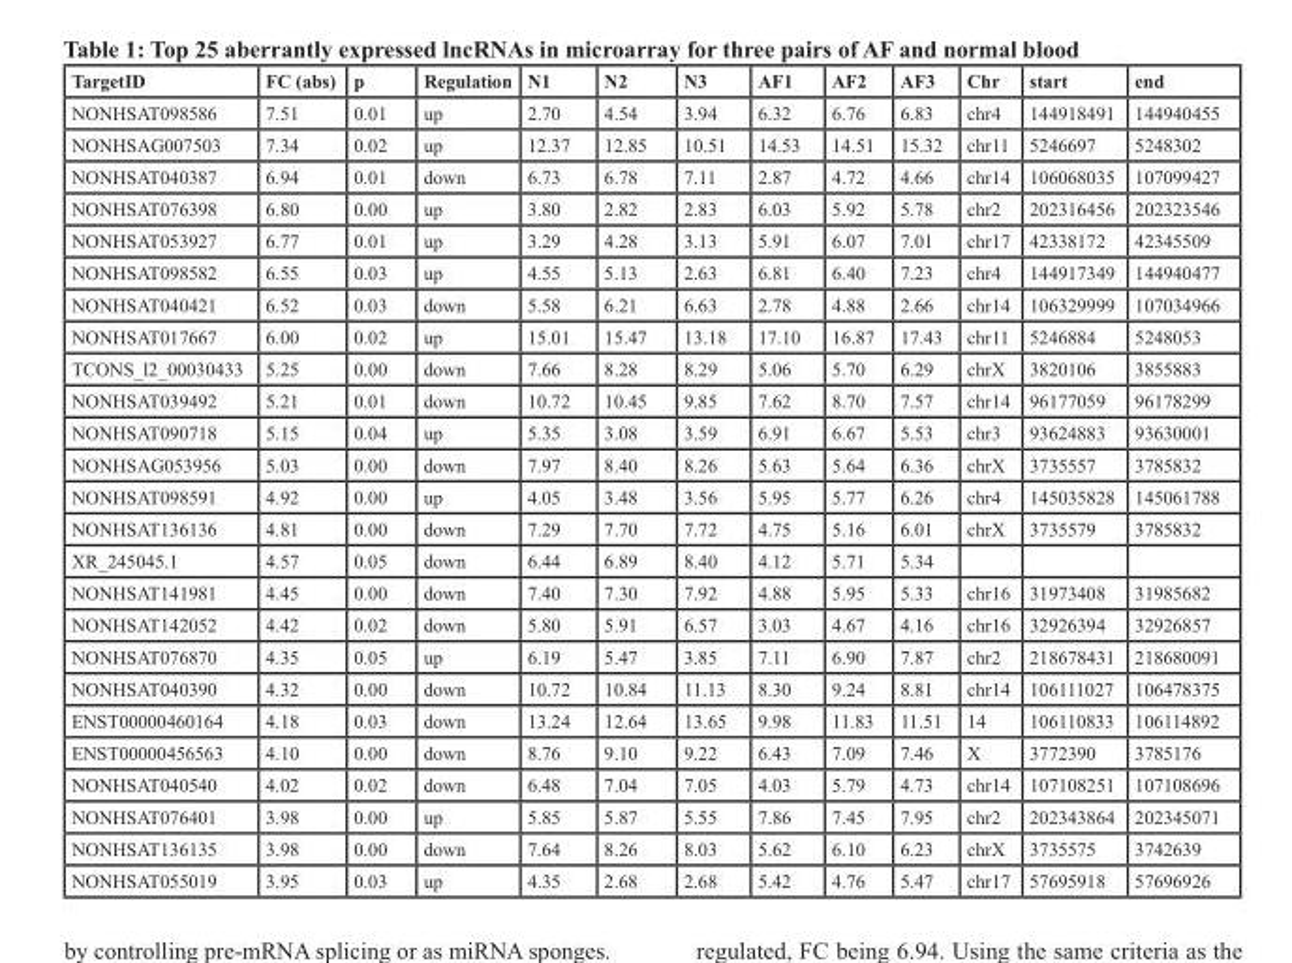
<table><thead><tr><td>TargetID</td><td>FC (abs)</td><td>p</td><td>Regulation</td><td>N1</td><td>N2</td><td>N3</td><td>AF1</td><td>AF2</td><td>AF3</td><td>Chr</td><td>start</td><td>end</td></tr></thead><tbody><tr><td>NONHSAT098586</td><td>7.51</td><td>0.01</td><td>up</td><td>2.70</td><td>4.54</td><td>3.94</td><td>6.32</td><td>6.76</td><td>6.83</td><td>chr4</td><td>144918491</td><td>144940455</td></tr><tr><td>NONHSAG007503</td><td>7.34</td><td>0.02</td><td>up</td><td>12.37</td><td>12.85</td><td>10.51</td><td>14.53</td><td>14.51</td><td>15.32</td><td>chr11</td><td>5246697</td><td>5248302</td></tr><tr><td>NONHSAT040387</td><td>6.94</td><td>0.01</td><td>down</td><td>6.73</td><td>6.78</td><td>7.11</td><td>2.87</td><td>4.72</td><td>4.66</td><td>chr14</td><td>106068035</td><td>107099427</td></tr><tr><td>NONHSAT076398</td><td>6.80</td><td>0.00</td><td>up</td><td>3.80</td><td>2.82</td><td>2.83</td><td>6.03</td><td>5.92</td><td>5.78</td><td>chr2</td><td>202316456</td><td>202323546</td></tr><tr><td>NONHSAT053927</td><td>6.77</td><td>0.01</td><td>up</td><td>3.29</td><td>4.28</td><td>3.13</td><td>5.91</td><td>6.07</td><td>7.01</td><td>chr17</td><td>42338172</td><td>42345509</td></tr><tr><td>NONHSAT098582</td><td>6.55</td><td>0.03</td><td>up</td><td>4.55</td><td>5.13</td><td>2.63</td><td>6.81</td><td>6.40</td><td>7.23</td><td>chr4</td><td>144917349</td><td>144940477</td></tr><tr><td>NONHSAT040421</td><td>6.52</td><td>0.03</td><td>down</td><td>5.58</td><td>6.21</td><td>6.63</td><td>2.78</td><td>4.88</td><td>2.66</td><td>chr14</td><td>106329999</td><td>107034966</td></tr><tr><td>NONHSAT017667</td><td>6.00</td><td>0.02</td><td>up</td><td>15.01</td><td>15.47</td><td>13.18</td><td>17.10</td><td>16.87</td><td>17.43</td><td>chr11</td><td>5246884</td><td>5248053</td></tr><tr><td>TCONS_l2_00030433</td><td>5.25</td><td>0.00</td><td>down</td><td>7.66</td><td>8.28</td><td>8.29</td><td>5.06</td><td>5.70</td><td>6.29</td><td>chrX</td><td>3820106</td><td>3855883</td></tr><tr><td>NONHSAT039492</td><td>5.21</td><td>0.01</td><td>down</td><td>10.72</td><td>10.45</td><td>9.85</td><td>7.62</td><td>8.70</td><td>7.57</td><td>chr14</td><td>96177059</td><td>96178299</td></tr><tr><td>NONHSAT090718</td><td>5.15</td><td>0.04</td><td>up</td><td>5.35</td><td>3.08</td><td>3.59</td><td>6.91</td><td>6.67</td><td>5.53</td><td>chr3</td><td>93624883</td><td>93630001</td></tr><tr><td>NONHSAG053956</td><td>5.03</td><td>0.00</td><td>down</td><td>7.97</td><td>8.40</td><td>8.26</td><td>5.63</td><td>5.64</td><td>6.36</td><td>chrX</td><td>3735557</td><td>3785832</td></tr><tr><td>NONHSAT098591</td><td>4.92</td><td>0.00</td><td>up</td><td>4.05</td><td>3.48</td><td>3.56</td><td>5.95</td><td>5.77</td><td>6.26</td><td>chr4</td><td>145035828</td><td>145061788</td></tr><tr><td>NONHSAT136136</td><td>4.81</td><td>0.00</td><td>down</td><td>7.29</td><td>7.70</td><td>7.72</td><td>4.75</td><td>5.16</td><td>6.01</td><td>chrX</td><td>3735579</td><td>3785832</td></tr><tr><td>XR_245045.1</td><td>4.57</td><td>0.05</td><td>down</td><td>6.44</td><td>6.89</td><td>8.40</td><td>4.12</td><td>5.71</td><td>5.34</td><td></td><td></td><td></td></tr><tr><td>NONHSAT141981</td><td>4.45</td><td>0.00</td><td>down</td><td>7.40</td><td>7.30</td><td>7.92</td><td>4.88</td><td>5.95</td><td>5.33</td><td>chr16</td><td>31973408</td><td>31985682</td></tr><tr><td>NONHSAT142052</td><td>4.42</td><td>0.02</td><td>down</td><td>5.80</td><td>5.91</td><td>6.57</td><td>3.03</td><td>4.67</td><td>4.16</td><td>chr16</td><td>32926394</td><td>32926857</td></tr><tr><td>NONHSAT076870</td><td>4.35</td><td>0.05</td><td>up</td><td>6.19</td><td>5.47</td><td>3.85</td><td>7.11</td><td>6.90</td><td>7.87</td><td>chr2</td><td>218678431</td><td>218680091</td></tr><tr><td>NONHSAT040390</td><td>4.32</td><td>0.00</td><td>down</td><td>10.72</td><td>10.84</td><td>11.13</td><td>8.30</td><td>9.24</td><td>8.81</td><td>chr14</td><td>106111027</td><td>106478375</td></tr><tr><td>ENST00000460164</td><td>4.18</td><td>0.03</td><td>down</td><td>13.24</td><td>12.64</td><td>13.65</td><td>9.98</td><td>11.83</td><td>11.51</td><td>14</td><td>106110833</td><td>106114892</td></tr><tr><td>ENST00000456563</td><td>4.10</td><td>0.00</td><td>down</td><td>8.76</td><td>9.10</td><td>9.22</td><td>6.43</td><td>7.09</td><td>7.46</td><td>X</td><td>3772390</td><td>3785176</td></tr><tr><td>NONHSAT040540</td><td>4.02</td><td>0.02</td><td>down</td><td>6.48</td><td>7.04</td><td>7.05</td><td>4.03</td><td>5.79</td><td>4.73</td><td>chr14</td><td>107108251</td><td>107108696</td></tr><tr><td>NONHSAT076401</td><td>3.98</td><td>0.00</td><td>up</td><td>5.85</td><td>5.87</td><td>5.55</td><td>7.86</td><td>7.45</td><td>7.95</td><td>chr2</td><td>202343864</td><td>202345071</td></tr><tr><td>NONHSAT136135</td><td>3.98</td><td>0.00</td><td>down</td><td>7.64</td><td>8.26</td><td>8.03</td><td>5.62</td><td>6.10</td><td>6.23</td><td>chrX</td><td>3735575</td><td>3742639</td></tr><tr><td>NONHSAT055019</td><td>3.95</td><td>0.03</td><td>up</td><td>4.35</td><td>2.68</td><td>2.68</td><td>5.42</td><td>4.76</td><td>5.47</td><td>chr17</td><td>57695918</td><td>57696926</td></tr></tbody></table>